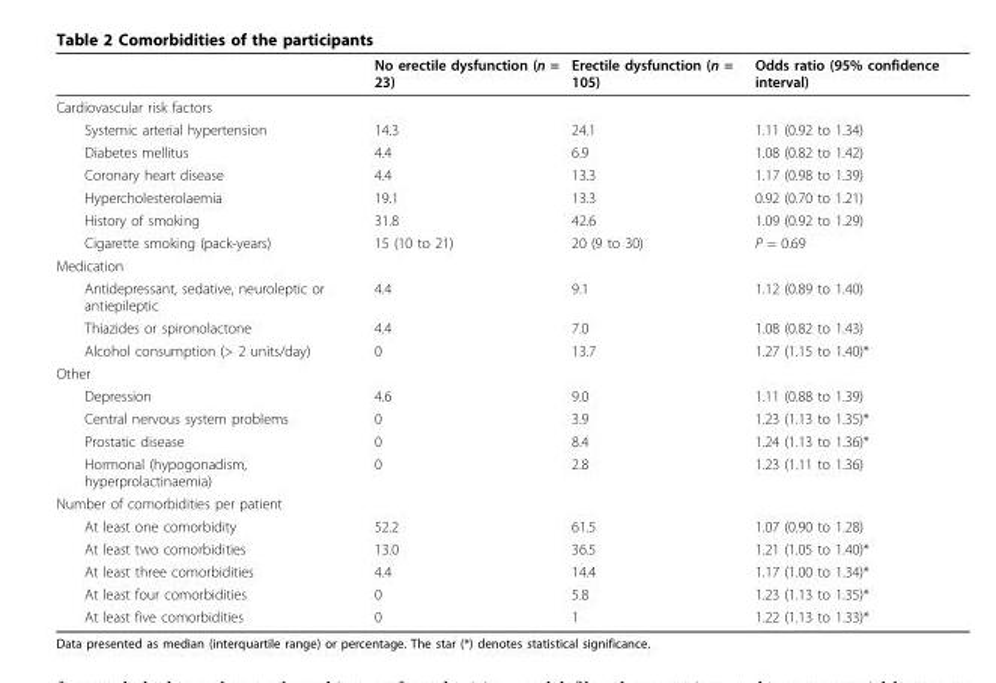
<table><thead><tr><td></td><td>No erectile dysfunction (n = 23)</td><td>Erectile dysfunction (n = 105)</td><td>Odds ratio (95% confidence interval)</td></tr></thead><tbody><tr><td colspan="4">Cardiovascular risk factors</td></tr><tr><td>Systemic arterial hypertension</td><td>14.3</td><td>24.1</td><td>1.11 (0.92 to 1.34)</td></tr><tr><td>Diabetes mellitus</td><td>4.4</td><td>6.9</td><td>1.08 (0.82 to 1.42)</td></tr><tr><td>Coronary heart disease</td><td>4.4</td><td>13.3</td><td>1.17 (0.98 to 1.39)</td></tr><tr><td>Hypercholesterolaemia</td><td>19.1</td><td>13.3</td><td>0.92 (0.70 to 1.21)</td></tr><tr><td>History of smoking</td><td>31.8</td><td>42.6</td><td>1.09 (0.92 to 1.29)</td></tr><tr><td>Cigarette smoking (pack-years)</td><td>15 (10 to 21)</td><td>20 (9 to 30)</td><td>P = 0.69</td></tr><tr><td colspan="4">Medication</td></tr><tr><td>Antidepressant, sedative, neuroleptic or antiepileptic</td><td>4.4</td><td>9.1</td><td>1.12 (0.89 to 1.40)</td></tr><tr><td>Thiazides or spironolactone</td><td>4.4</td><td>7.0</td><td>1.08 (0.82 to 1.43)</td></tr><tr><td>Alcohol consumption (&gt; 2 units/day)</td><td>0</td><td>13.7</td><td>1.27 (1.15 to 1.40)*</td></tr><tr><td colspan="4">Other</td></tr><tr><td>Depression</td><td>4.6</td><td>9.0</td><td>1.11 (0.88 to 1.39)</td></tr><tr><td>Central nervous system problems</td><td>0</td><td>3.9</td><td>1.23 (1.13 to 1.35)*</td></tr><tr><td>Prostatic disease</td><td>0</td><td>8.4</td><td>1.24 (1.13 to 1.36)*</td></tr><tr><td>Hormonal (hypogonadism, hyperprolactinaemia)</td><td>0</td><td>2.8</td><td>1.23 (1.11 to 1.36)</td></tr><tr><td colspan="4">Number of comorbidities per patient</td></tr><tr><td>At least one comorbidity</td><td>52.2</td><td>61.5</td><td>1.07 (0.90 to 1.28)</td></tr><tr><td>At least two comorbidities</td><td>13.0</td><td>36.5</td><td>1.21 (1.05 to 1.40)*</td></tr><tr><td>At least three comorbidities</td><td>4.4</td><td>14.4</td><td>1.17 (1.00 to 1.34)*</td></tr><tr><td>At least four comorbidities</td><td>0</td><td>5.8</td><td>1.23 (1.13 to 1.35)*</td></tr><tr><td>At least five comorbidities</td><td>0</td><td>1</td><td>1.22 (1.13 to 1.33)*</td></tr></tbody></table>